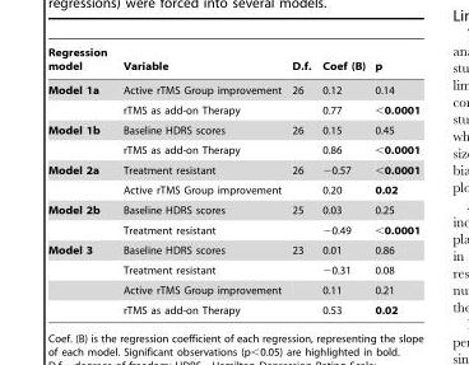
<table><thead><tr><td>Regression model</td><td>Variable</td><td>D.f.</td><td>Coef (B)</td><td>p</td></tr></thead><tbody><tr><td rowspan="2">Model 1a</td><td>Active rTMS Group improvement</td><td>26</td><td>0.12</td><td>0.14</td></tr><tr><td>rTMS as add-on Therapy</td><td></td><td>0.77</td><td>&lt;0.0001</td></tr><tr><td rowspan="2">Model 1b</td><td>Baseline HDRS scores</td><td>26</td><td>0.15</td><td>0.45</td></tr><tr><td>rTMS as add-on Therapy</td><td></td><td>0.86</td><td>&lt;0.0001</td></tr><tr><td rowspan="2">Model 2a</td><td>Treatment resistant</td><td>26</td><td>−0.57</td><td>&lt;0.0001</td></tr><tr><td>Active rTMS Group improvement</td><td></td><td>0.20</td><td>0.02</td></tr><tr><td rowspan="2">Model 2b</td><td>Baseline HDRS scores</td><td>25</td><td>0.03</td><td>0.25</td></tr><tr><td>Treatment resistant</td><td></td><td>−0.49</td><td>&lt;0.0001</td></tr><tr><td rowspan="4">Model 3</td><td>Baseline HDRS scores</td><td>23</td><td>0.01</td><td>0.86</td></tr><tr><td>Treatment resistant</td><td></td><td>−0.31</td><td>0.08</td></tr><tr><td>Active rTMS Group improvement</td><td></td><td>0.11</td><td>0.21</td></tr><tr><td>rTMS as add-on Therapy</td><td></td><td>0.53</td><td>0.02</td></tr></tbody></table>